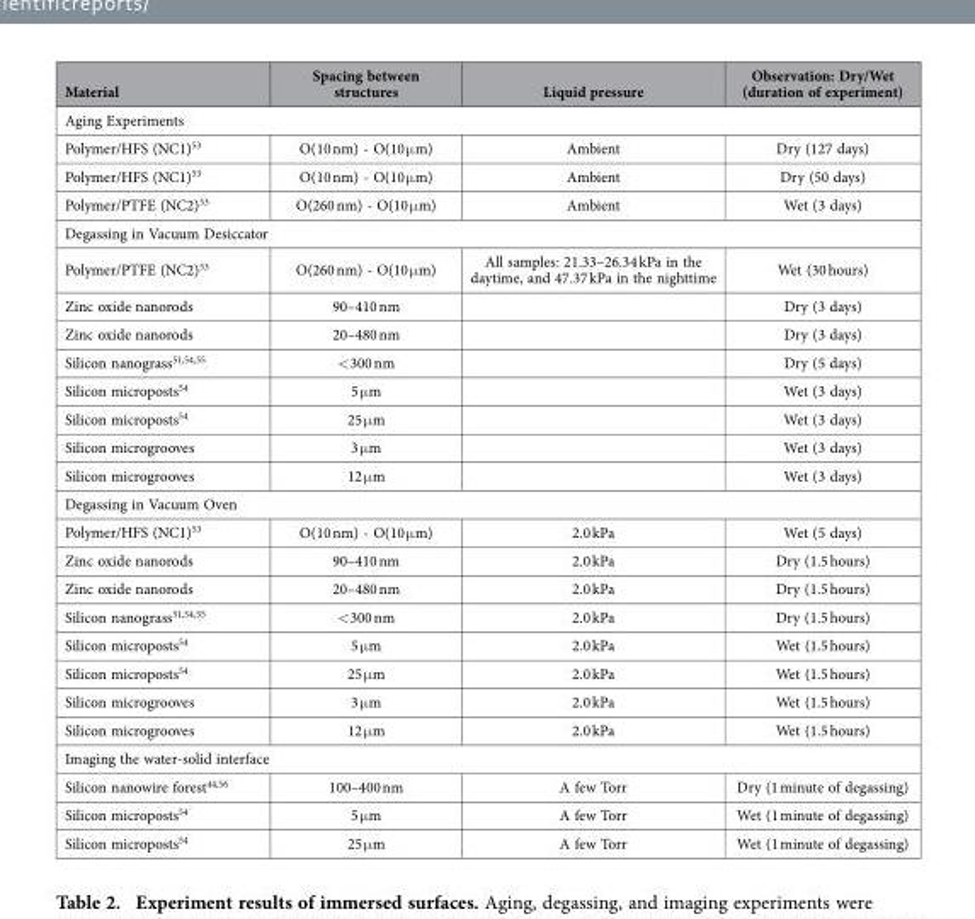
<table><thead><tr><td>Material</td><td>Spacing between structures</td><td>Liquid pressure</td><td>Observation: Dry/Wet (duration of experiment)</td></tr></thead><tbody><tr><td colspan="4">Aging Experiments</td></tr><tr><td>Polymer/HFS (NC1)<sup>53</sup></td><td>O(10 nm) - O(10 μ m)</td><td>Ambient</td><td>Dry (127 days)</td></tr><tr><td>Polymer/HFS (NC1)<sup>53</sup></td><td>O(10 nm) - O(10 μ m)</td><td>Ambient</td><td>Dry (50 days)</td></tr><tr><td>Polymer/PTFE (NC2)<sup>53</sup></td><td>O(260 nm) - O(10 μ m)</td><td>Ambient</td><td>Wet (3 days)</td></tr><tr><td colspan="4">Degassing in Vacuum Desiccator</td></tr><tr><td>Polymer/PTFE (NC2)<sup>53</sup></td><td>O(260 nm) - O(10 μ m)</td><td>All samples: 21.33–26.34 kPa in the daytime, and 47.37 kPa in the nighttime</td><td>Wet (30 hours)</td></tr><tr><td>Zinc oxide nanorods</td><td>90–410 nm</td><td></td><td>Dry (3 days)</td></tr><tr><td>Zinc oxide nanorods</td><td>20–480 nm</td><td></td><td>Dry (3 days)</td></tr><tr><td>Silicon nanograss<sup>51</sup>,<sup>54</sup>,<sup>55</sup></td><td>&lt; 300 nm</td><td></td><td>Dry (5 days)</td></tr><tr><td>Silicon microposts<sup>54</sup></td><td>5 μ m</td><td></td><td>Wet (3 days)</td></tr><tr><td>Silicon microposts<sup>54</sup></td><td>25 μ m</td><td></td><td>Wet (3 days)</td></tr><tr><td>Silicon microgrooves</td><td>3 μ m</td><td></td><td>Wet (3 days)</td></tr><tr><td>Silicon microgrooves</td><td>12 μ m</td><td></td><td>Wet (3 days)</td></tr><tr><td colspan="4">Degassing in Vacuum Oven</td></tr><tr><td>Polymer/HFS (NC1)<sup>53</sup></td><td>O(10 nm) - O(10 μ m)</td><td>2.0 kPa</td><td>Wet (5 days)</td></tr><tr><td>Zinc oxide nanorods</td><td>90–410 nm</td><td>2.0 kPa</td><td>Dry (1.5 hours)</td></tr><tr><td>Zinc oxide nanorods</td><td>20–480 nm</td><td>2.0 kPa</td><td>Dry (1.5 hours)</td></tr><tr><td>Silicon nanograss<sup>51</sup>,<sup>54</sup>,<sup>55</sup></td><td>&lt; 300 nm</td><td>2.0 kPa</td><td>Dry (1.5 hours)</td></tr><tr><td>Silicon microposts<sup>54</sup></td><td>5 μ m</td><td>2.0 kPa</td><td>Wet (1.5 hours)</td></tr><tr><td>Silicon microposts<sup>54</sup></td><td>25 μ m</td><td>2.0 kPa</td><td>Wet (1.5 hours)</td></tr><tr><td>Silicon microgrooves</td><td>3 μ m</td><td>2.0 kPa</td><td>Wet (1.5 hours)</td></tr><tr><td>Silicon microgrooves</td><td>12 μ m</td><td>2.0 kPa</td><td>Wet (1.5 hours)</td></tr><tr><td colspan="4">Imaging the water-solid interface</td></tr><tr><td>Silicon nanowire forest<sup>44</sup>,<sup>56</sup></td><td>100–400 nm</td><td>A few Torr</td><td>Dry (1 minute of degassing)</td></tr><tr><td>Silicon microposts<sup>54</sup></td><td>5 μ m</td><td>A few Torr</td><td>Wet (1 minute of degassing)</td></tr><tr><td>Silicon microposts<sup>54</sup></td><td>25 μ m</td><td>A few Torr</td><td>Wet (1 minute of degassing)</td></tr></tbody></table>